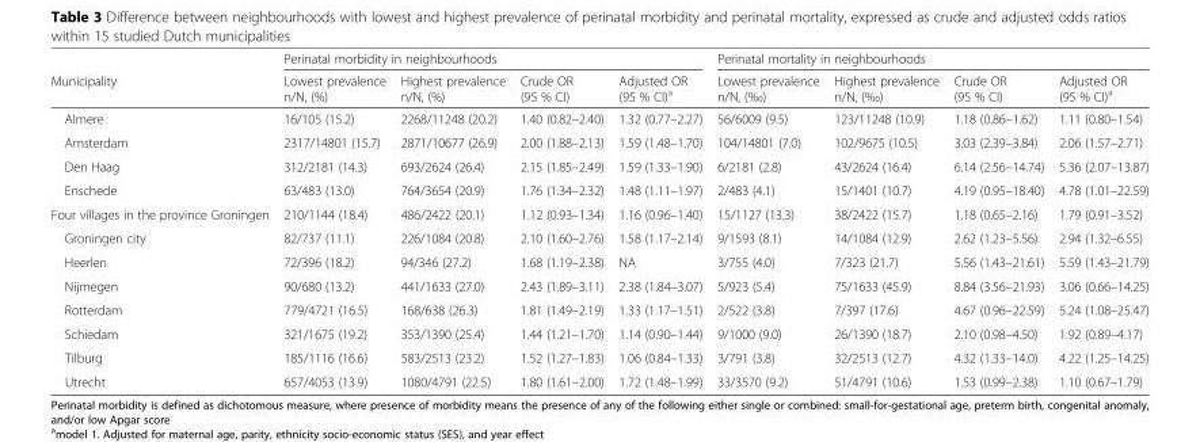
<table><thead><tr><td rowspan="2">Municipality</td><td colspan="4">Perinatal morbidity in neighbourhoods</td><td colspan="4">Perinatal mortality in neighbourhoods</td></tr><tr><td>Lowest prevalence n/N, (%)</td><td>Highest prevalence n/N, (%)</td><td>Crude OR (95 % CI)</td><td>Adjusted OR (95 % CI)<sup>a</sup></td><td>Lowest prevalence n/N, (‰)</td><td>Highest prevalence n/N, (‰)</td><td>Crude OR (95 % CI)</td><td>Adjusted OR (95 % CI)<sup>a</sup></td></tr></thead><tbody><tr><td>Almere</td><td>16/105 (15.2)</td><td>2268/11248 (20.2)</td><td>1.40 (0.82–2.40)</td><td>1.32 (0.77–2.27)</td><td>56/6009 (9.5)</td><td>123/11248 (10.9)</td><td>1.18 (0.86–1.62)</td><td>1.11 (0.80–1.54)</td></tr><tr><td>Amsterdam</td><td>2317/14801 (15.7)</td><td>2871/10677 (26.9)</td><td>2.00 (1.88–2.13)</td><td>1.59 (1.48–1.70)</td><td>104/14801 (7.0)</td><td>102/9675 (10.5)</td><td>3.03 (2.39–3.84)</td><td>2.06 (1.57–2.71)</td></tr><tr><td>Den Haag</td><td>312/2181 (14.3)</td><td>693/2624 (26.4)</td><td>2.15 (1.85–2.49)</td><td>1.59 (1.33–1.90)</td><td>6/2181 (2.8)</td><td>43/2624 (16.4)</td><td>6.14 (2.56–14.74)</td><td>5.36 (2.07–13.87)</td></tr><tr><td>Enschede</td><td>63/483 (13.0)</td><td>764/3654 (20.9)</td><td>1.76 (1.34–2.32)</td><td>1.48 (1.11–1.97)</td><td>2/483 (4.1)</td><td>15/1401 (10.7)</td><td>4.19 (0.95–18.40)</td><td>4.78 (1.01–22.59)</td></tr><tr><td>Four villages in the province Groningen</td><td>210/1144 (18.4)</td><td>486/2422 (20.1)</td><td>1.12 (0.93–1.34)</td><td>1.16 (0.96–1.40)</td><td>15/1127 (13.3)</td><td>38/2422 (15.7)</td><td>1.18 (0.65–2.16)</td><td>1.79 (0.91–3.52)</td></tr><tr><td>Groningen city</td><td>82/737 (11.1)</td><td>226/1084 (20.8)</td><td>2.10 (1.60–2.76)</td><td>1.58 (1.17–2.14)</td><td>9/1593 (8.1)</td><td>14/1084 (12.9)</td><td>2.62 (1.23–5.56)</td><td>2.94 (1.32–6.55)</td></tr><tr><td>Heerlen</td><td>72/396 (18.2)</td><td>94/346 (27.2)</td><td>1.68 (1.19–2.38)</td><td>NA</td><td>3/755 (4.0)</td><td>7/323 (21.7)</td><td>5.56 (1.43–21.61)</td><td>5.59 (1.43–21.79)</td></tr><tr><td>Nijmegen</td><td>90/680 (13.2)</td><td>441/1633 (27.0)</td><td>2.43 (1.89–3.11)</td><td>2.38 (1.84–3.07)</td><td>5/923 (5.4)</td><td>75/1633 (45.9)</td><td>8.84 (3.56–21.93)</td><td>3.06 (0.66–14.25)</td></tr><tr><td>Rotterdam</td><td>779/4721 (16.5)</td><td>168/638 (26.3)</td><td>1.81 (1.49–2.19)</td><td>1.33 (1.17–1.51)</td><td>2/522 (3.8)</td><td>7/397 (17.6)</td><td>4.67 (0.96–22.59)</td><td>5.24 (1.08–25.47)</td></tr><tr><td>Schiedam</td><td>321/1675 (19.2)</td><td>353/1390 (25.4)</td><td>1.44 (1.21–1.70)</td><td>1.14 (0.90–1.44)</td><td>9/1000 (9.0)</td><td>26/1390 (18.7)</td><td>2.10 (0.98–4.50)</td><td>1.92 (0.89–4.17)</td></tr><tr><td>Tilburg</td><td>185/1116 (16.6)</td><td>583/2513 (23.2)</td><td>1.52 (1.27–1.83)</td><td>1.06 (0.84–1.33)</td><td>3/791 (3.8)</td><td>32/2513 (12.7)</td><td>4.32 (1.33–14.0)</td><td>4.22 (1.25–14.25)</td></tr><tr><td>Utrecht</td><td>657/4053 (13.9)</td><td>1080/4791 (22.5)</td><td>1.80 (1.61–2.00)</td><td>1.72 (1.48–1.99)</td><td>33/3570 (9.2)</td><td>51/4791 (10.6)</td><td>1.53 (0.99–2.38)</td><td>1.10 (0.67–1.79)</td></tr></tbody></table>